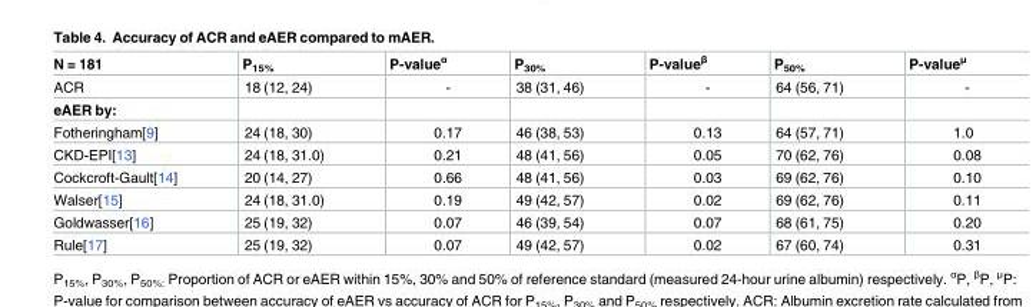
<table><thead><tr><td>N = 181</td><td>P<sub>15%</sub></td><td>P-value<sup>α</sup></td><td>P<sub>30%</sub></td><td>P-value<sup>β</sup></td><td>P<sub>50%</sub></td><td>P-value<sup>μ</sup></td></tr></thead><tbody><tr><td>ACR</td><td>18 (12, 24)</td><td>-</td><td>38 (31, 46)</td><td>-</td><td>64 (56, 71)</td><td>-</td></tr><tr><td colspan="7">eAER by:</td></tr><tr><td>Fotheringham[9]</td><td>24 (18, 30)</td><td>0.17</td><td>46 (38, 53)</td><td>0.13</td><td>64 (57, 71)</td><td>1.0</td></tr><tr><td>CKD-EPI[13]</td><td>24 (18, 31.0)</td><td>0.21</td><td>48 (41, 56)</td><td>0.05</td><td>70 (62, 76)</td><td>0.08</td></tr><tr><td>Cockcroft-Gault[14]</td><td>20 (14, 27)</td><td>0.66</td><td>48 (41, 56)</td><td>0.03</td><td>69 (62, 76)</td><td>0.10</td></tr><tr><td>Walser[15]</td><td>24 (18, 31.0)</td><td>0.19</td><td>49 (42, 57)</td><td>0.02</td><td>69 (62, 76)</td><td>0.11</td></tr><tr><td>Goldwasser[16]</td><td>25 (19, 32)</td><td>0.07</td><td>46 (39, 54)</td><td>0.07</td><td>68 (61, 75)</td><td>0.20</td></tr><tr><td>Rule[17]</td><td>25 (19, 32)</td><td>0.07</td><td>49 (42, 57)</td><td>0.02</td><td>67 (60, 74)</td><td>0.31</td></tr></tbody></table>